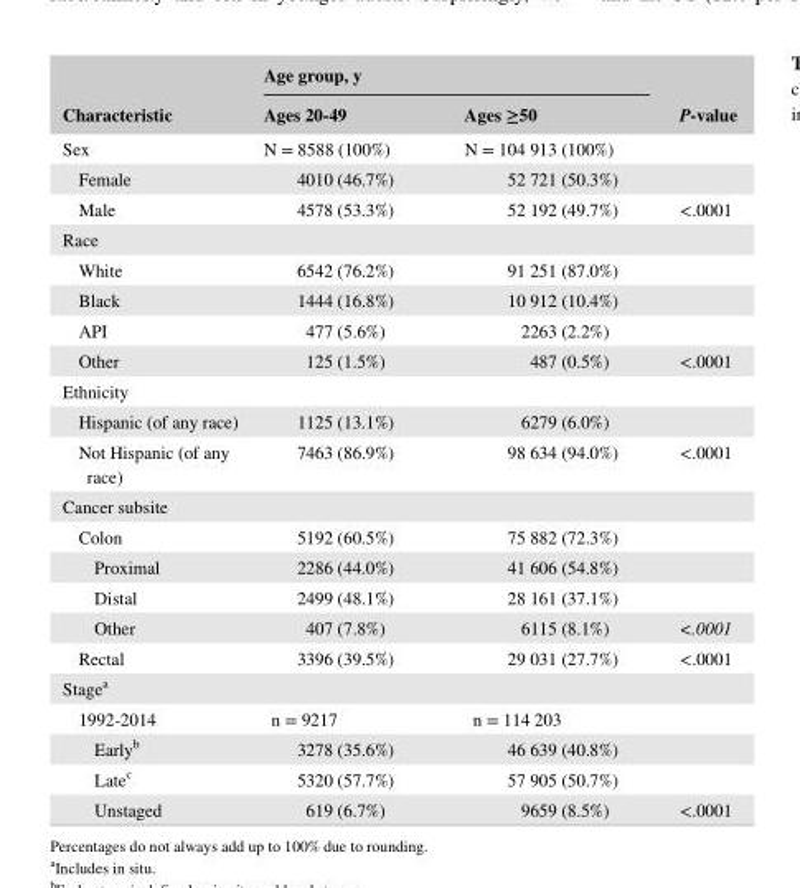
<table><thead><tr><td rowspan="2">Characteristic</td><td colspan="2">Age group, y</td><td rowspan="2">P- value</td></tr><tr><td>Ages 20- 49</td><td>Ages ≥50</td></tr></thead><tbody><tr><td>Sex</td><td>N = 8588 (100%)</td><td>N = 104 913 (100%)</td><td></td></tr><tr><td>Female</td><td>4010 (46.7%)</td><td>52 721 (50.3%)</td><td></td></tr><tr><td>Male</td><td>4578 (53.3%)</td><td>52 192 (49.7%)</td><td>&lt;.0001</td></tr><tr><td colspan="4">Race</td></tr><tr><td>White</td><td>6542 (76.2%)</td><td>91 251 (87.0%)</td><td></td></tr><tr><td>Black</td><td>1444 (16.8%)</td><td>10 912 (10.4%)</td><td></td></tr><tr><td>API</td><td>477 (5.6%)</td><td>2263 (2.2%)</td><td></td></tr><tr><td>Other</td><td>125 (1.5%)</td><td>487 (0.5%)</td><td>&lt;.0001</td></tr><tr><td colspan="4">Ethnicity</td></tr><tr><td>Hispanic (of any race)</td><td>1125 (13.1%)</td><td>6279 (6.0%)</td><td></td></tr><tr><td>Not Hispanic (of any race)</td><td>7463 (86.9%)</td><td>98 634 (94.0%)</td><td>&lt;.0001</td></tr><tr><td colspan="4">Cancer subsite</td></tr><tr><td>Colon</td><td>5192 (60.5%)</td><td>75 882 (72.3%)</td><td></td></tr><tr><td>Proximal</td><td>2286 (44.0%)</td><td>41 606 (54.8%)</td><td></td></tr><tr><td>Distal</td><td>2499 (48.1%)</td><td>28 161 (37.1%)</td><td></td></tr><tr><td>Other</td><td>407 (7.8%)</td><td>6115 (8.1%)</td><td>&lt;.0001</td></tr><tr><td>Rectal</td><td>3396 (39.5%)</td><td>29 031 (27.7%)</td><td>&lt;.0001</td></tr><tr><td colspan="4">Stage<sup>a</sup></td></tr><tr><td>1992- 2014</td><td>n = 9217</td><td>n = 114 203</td><td></td></tr><tr><td>Early<sup>b</sup></td><td>3278 (35.6%)</td><td>46 639 (40.8%)</td><td></td></tr><tr><td>Late<sup>c</sup></td><td>5320 (57.7%)</td><td>57 905 (50.7%)</td><td></td></tr><tr><td>Unstaged</td><td>619 (6.7%)</td><td>9659 (8.5%)</td><td>&lt;.0001</td></tr></tbody></table>